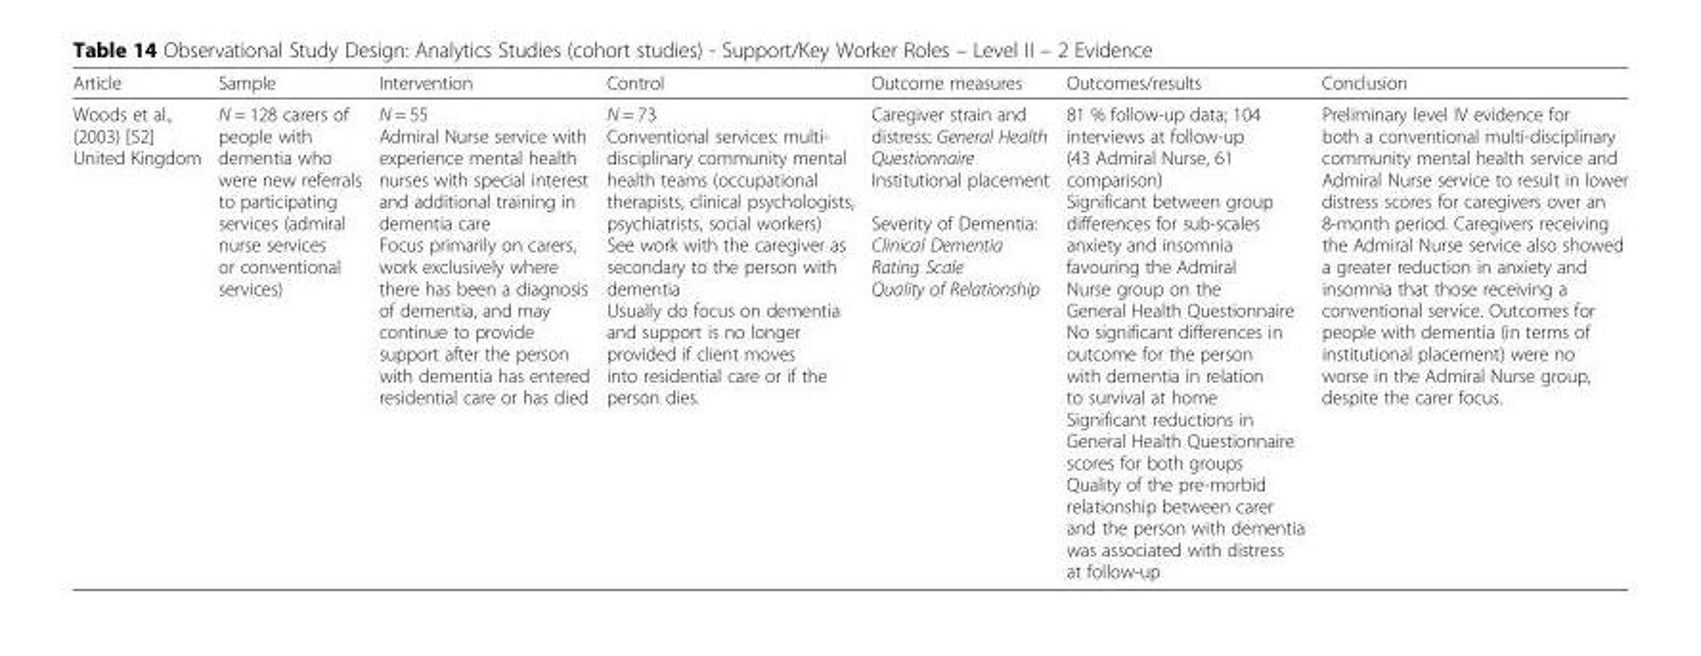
<table><thead><tr><td>Article</td><td>Sample</td><td>Intervention</td><td>Control</td><td>Outcome measures</td><td>Outcomes/results</td><td>Conclusion</td></tr></thead><tbody><tr><td>Woods et al., (2003) [52] United Kingdom</td><td>N = 128 carers of people with dementia who were new referrals to participating services (admiral nurse services or conventional services)</td><td>N = 55 Admiral Nurse service with experience mental health nurses with special interest and additional training in dementia care Focus primarily on carers, work exclusively where there has been a diagnosis of dementia, and may continue to provide support after the person with dementia has entered residential care or has died</td><td>N = 73 Conventional services: multi- disciplinary community mental health teams (occupational therapists, clinical psychologists, psychiatrists, social workers) See work with the caregiver as secondary to the person with dementia Usually do focus on dementia and support is no longer provided if client moves into residential care or if the person dies.</td><td>Caregiver strain and distress: General Health Questionnaire Institutional placement Severity of Dementia: Clinical Dementia Rating Scale Quality of Relationship</td><td>81 % follow-up data; 104 interviews at follow-up (43 Admiral Nurse, 61 comparison) Significant between group differences for sub-scales anxiety and insomnia favouring the Admiral Nurse group on the General Health Questionnaire No significant differences in outcome for the person with dementia in relation to survival at home Significant reductions in General Health Questionnaire scores for both groups Quality of the pre-morbid relationship between carer and the person with dementia was associated with distress at follow-up</td><td>Preliminary level IV evidence for both a conventional multi-disciplinary community mental health service and Admiral Nurse service to result in lower distress scores for caregivers over an 8-month period. Caregivers receiving the Admiral Nurse service also showed a greater reduction in anxiety and insomnia that those receiving a conventional service. Outcomes for people with dementia (in terms of institutional placement) were no worse in the Admiral Nurse group, despite the carer focus.</td></tr></tbody></table>